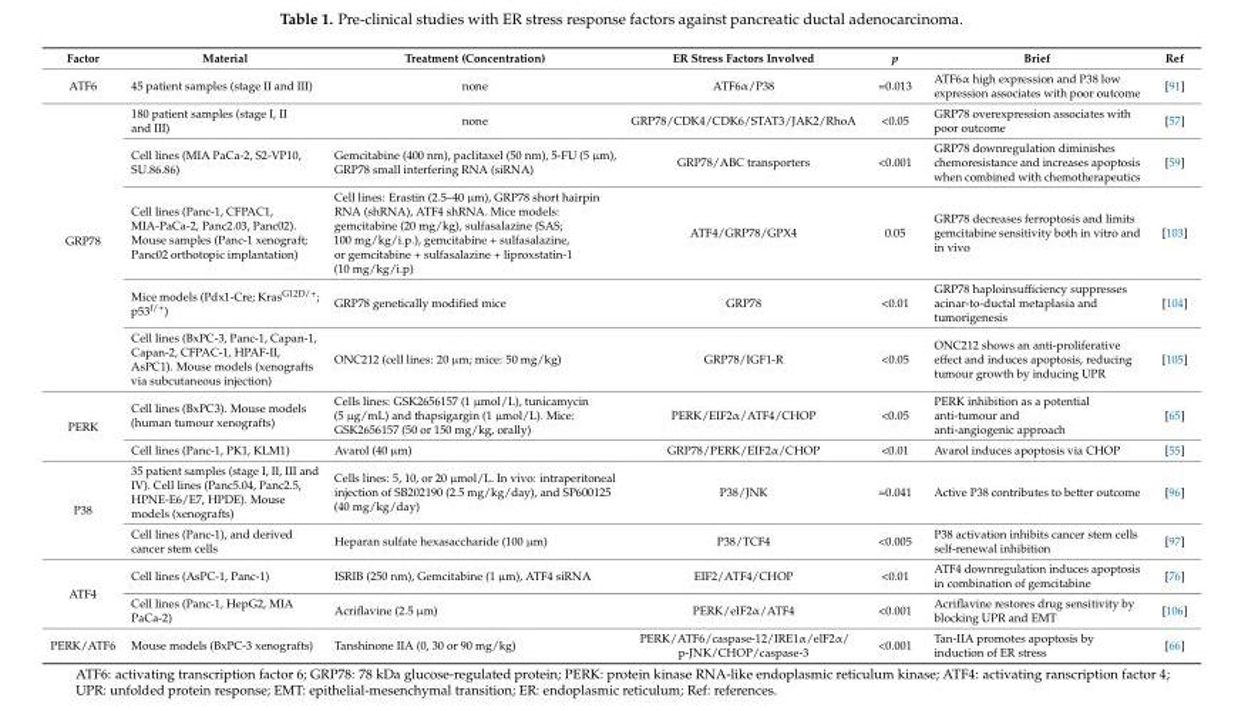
<table><thead><tr><td>Factor</td><td>Material</td><td>Treatment (Concentration)</td><td>ER Stress Factors Involved</td><td>p</td><td>Brief</td><td>Ref</td></tr></thead><tbody><tr><td>ATF6</td><td>45 patient samples (stage II and III)</td><td>none</td><td>ATF6α/P38</td><td>=0.013</td><td>ATF6α high expression and P38 low expression associates with poor outcome</td><td>[91]</td></tr><tr><td rowspan="5">GRP78</td><td>180 patient samples (stage I, II and III)</td><td>none</td><td>GRP78/CDK4/CDK6/STAT3/JAK2/RhoA</td><td>&lt;0.05</td><td>GRP78 overexpression associates with poor outcome</td><td>[57]</td></tr><tr><td>Cell lines (MIA PaCa-2, S2-VP10, SU.86.86)</td><td>Gemcitabine (400 nm), paclitaxel (50 nm), 5-FU (5 µm), GRP78 small interfering RNA (siRNA)</td><td>GRP78/ABC transporters</td><td>&lt;0.001</td><td>GRP78 downregulation diminishes chemoresistance and increases apoptosis when combined with chemotherapeutics</td><td>[59]</td></tr><tr><td>Cell lines (Panc-1, CFPAC1, MIA-PaCa-2, Panc2.03, Panc02). Mouse samples (Panc-1 xenograft; Panc02 orthotopic implantation)</td><td>Cell lines: Erastin (2.5–40 µm), GRP78 short hairpin RNA (shRNA), ATF4 shRNA. Mice models: gemcitabine (20 mg/kg), sulfasalazine (SAS; 100 mg/kg/i.p.), gemcitabine + sulfasalazine, or gemcitabine + sulfasalazine + liproxstatin-1 (10 mg/kg/i.p)</td><td>ATF4/GRP78/GPX4</td><td>0.05</td><td>GRP78 decreases ferroptosis and limits gemcitabine sensitivity both in vitro and in vivo</td><td>[103]</td></tr><tr><td>Mice models (Pdx1-Cre; Kras<sup>G12D/+</sup>; p53<sup>f/+</sup>)</td><td>GRP78 genetically modified mice</td><td>GRP78</td><td>&lt;0.01</td><td>GRP78 haploinsufficiency suppresses acinar-to-ductal metaplasia and tumorigenesis</td><td>[104]</td></tr><tr><td>Cell lines (BxPC-3, Panc-1, Capan-1, Capan-2, CFPAC-1, HPAF-II, AsPC1). Mouse models (xenografts via subcutaneous injection)</td><td>ONC212 (cell lines: 20 µm; mice: 50 mg/kg)</td><td>GRP78/IGF1-R</td><td>&lt;0.05</td><td>ONC212 shows an anti-proliferative effect and induces apoptosis, reducing tumour growth by inducing UPR</td><td>[105]</td></tr><tr><td rowspan="2">PERK</td><td>Cell lines (BxPC3). Mouse models (human tumour xenografts)</td><td>Cells lines: GSK2656157 (1 µmol/L), tunicamycin (5 µg/mL) and thapsigargin (1 µmol/L). Mice: GSK2656157 (50 or 150 mg/kg, orally)</td><td>PERK/EIF2α/ATF4/CHOP</td><td>&lt;0.05</td><td>PERK inhibition as a potential anti-tumour and anti-angiogenic approach</td><td>[65]</td></tr><tr><td>Cell lines (Panc-1, PK1, KLM1)</td><td>Avarol (40 µm)</td><td>GRP78/PERK/EIF2α/CHOP</td><td>&lt;0.01</td><td>Avarol induces apoptosis via CHOP</td><td>[55]</td></tr><tr><td rowspan="2">P38</td><td>35 patient samples (stage I, II, III and IV). Cell lines (Panc5.04, Panc2.5, HPNE-E6/E7, HPDE). Mouse models (xenografts)</td><td>Cells lines: 5, 10, or 20 µmol/L. In vivo: intraperitoneal injection of SB202190 (2.5 mg/kg/day), and SP600125 (40 mg/kg/day)</td><td>P38/JNK</td><td>=0.041</td><td>Active P38 contributes to better outcome</td><td>[96]</td></tr><tr><td>Cell lines (Panc-1), and derived cancer stem cells</td><td>Heparan sulfate hexasaccharide (100 µm)</td><td>P38/TCF4</td><td>&lt;0.005</td><td>P38 activation inhibits cancer stem cells self-renewal inhibition</td><td>[97]</td></tr><tr><td rowspan="2">ATF4</td><td>Cell lines (AsPC-1, Panc-1)</td><td>ISRIB (250 nm), Gemcitabine (1 µm), ATF4 siRNA</td><td>EIF2/ATF4/CHOP</td><td>&lt;0.01</td><td>ATF4 downregulation induces apoptosis in combination of gemcitabine</td><td>[76]</td></tr><tr><td>Cell lines (Panc-1, HepG2, MIA PaCa-2)</td><td>Acriflavine (2.5 µm)</td><td>PERK/eIF2α/ATF4</td><td>&lt;0.001</td><td>Acriflavine restores drug sensitivity by blocking UPR and EMT</td><td>[106]</td></tr><tr><td>PERK/ATF6</td><td>Mouse models (BxPC-3 xenografts)</td><td>Tanshinone IIA (0, 30 or 90 mg/kg)</td><td>PERK/ATF6/caspase-12/IRE1α/elF2α/ p-JNK/CHOP/caspase-3</td><td>&lt;0.001</td><td>Tan-IIA promotes apoptosis by induction of ER stress</td><td>[66]</td></tr></tbody></table>